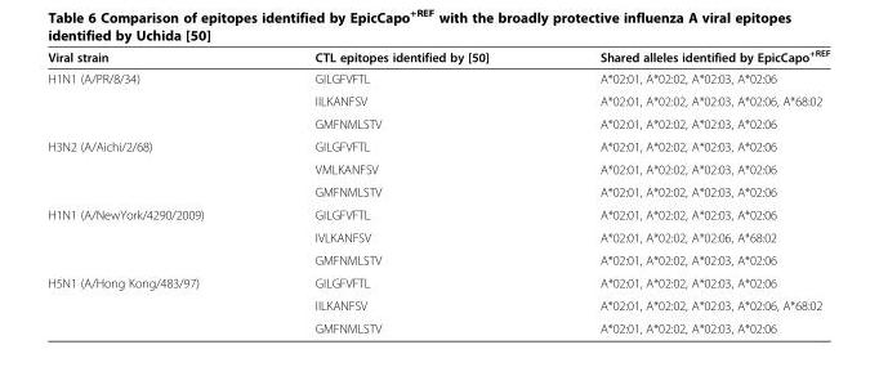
<table><thead><tr><td>Viral strain</td><td>CTL epitopes identified by [50]</td><td>Shared alleles identified by EpicCapo<sup>+REF</sup></td></tr></thead><tbody><tr><td rowspan="3">H1N1 (A/PR/8/34)</td><td>GILGFVFTL</td><td>A*02:01, A*02:02, A*02:03, A*02:06</td></tr><tr><td>IILKANFSV</td><td>A*02:01, A*02:02, A*02:03, A*02:06, A*68:02</td></tr><tr><td>GMFNMLSTV</td><td>A*02:01, A*02:02, A*02:03, A*02:06</td></tr><tr><td rowspan="3">H3N2 (A/Aichi/2/68)</td><td>GILGFVFTL</td><td>A*02:01, A*02:02, A*02:03, A*02:06</td></tr><tr><td>VMLKANFSV</td><td>A*02:01, A*02:02, A*02:03, A*02:06</td></tr><tr><td>GMFNMLSTV</td><td>A*02:01, A*02:02, A*02:03, A*02:06</td></tr><tr><td rowspan="3">H1N1 (A/NewYork/4290/2009)</td><td>GILGFVFTL</td><td>A*02:01, A*02:02, A*02:03, A*02:06</td></tr><tr><td>IVLKANFSV</td><td>A*02:01, A*02:02, A*02:06, A*68:02</td></tr><tr><td>GMFNMLSTV</td><td>A*02:01, A*02:02, A*02:03, A*02:06</td></tr><tr><td rowspan="3">H5N1 (A/Hong Kong/483/97)</td><td>GILGFVFTL</td><td>A*02:01, A*02:02, A*02:03, A*02:06</td></tr><tr><td>IILKANFSV</td><td>A*02:01, A*02:02, A*02:03, A*02:06, A*68:02</td></tr><tr><td>GMFNMLSTV</td><td>A*02:01, A*02:02, A*02:03, A*02:06</td></tr></tbody></table>